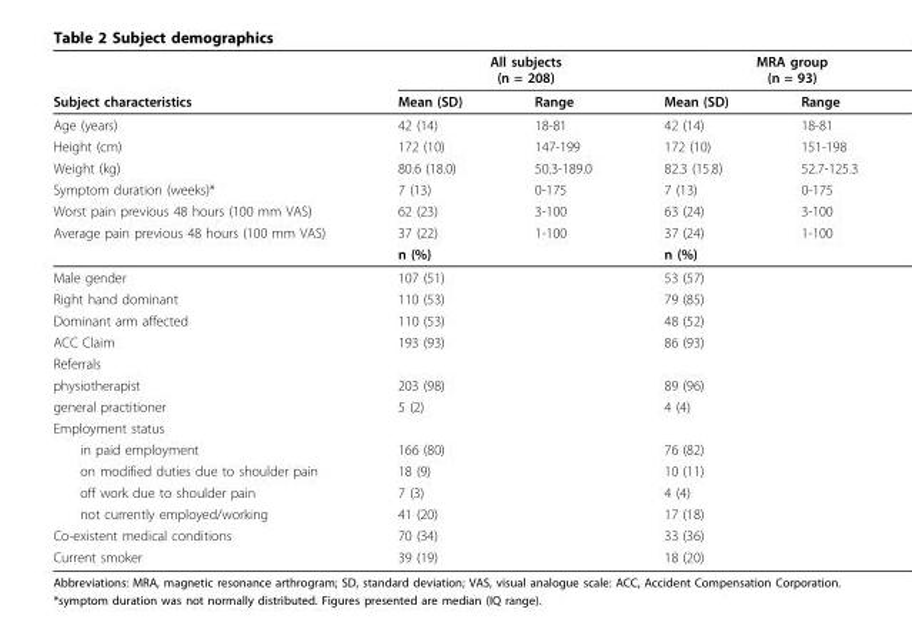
<table><thead><tr><td rowspan="2">Subject characteristics</td><td colspan="2">All subjects (n = 208)</td><td colspan="2">MRA group (n = 93)</td></tr><tr><td>Mean (SD)</td><td>Range</td><td>Mean (SD)</td><td>Range</td></tr></thead><tbody><tr><td>Age (years)</td><td>42 (14)</td><td>18-81</td><td>42 (14)</td><td>18-81</td></tr><tr><td>Height (cm)</td><td>172 (10)</td><td>147-199</td><td>172 (10)</td><td>151-198</td></tr><tr><td>Weight (kg)</td><td>80.6 (18.0)</td><td>50.3-189.0</td><td>82.3 (15.8)</td><td>52.7-125.3</td></tr><tr><td>Symptom duration (weeks)*</td><td>7 (13)</td><td>0-175</td><td>7 (13)</td><td>0-175</td></tr><tr><td>Worst pain previous 48 hours (100 mm VAS)</td><td>62 (23)</td><td>3-100</td><td>63 (24)</td><td>3-100</td></tr><tr><td rowspan="2">Average pain previous 48 hours (100 mm VAS)</td><td>37 (22)</td><td>1-100</td><td>37 (24)</td><td>1-100</td></tr><tr><td>n (%)</td><td></td><td>n (%)</td><td></td></tr><tr><td>Male gender</td><td>107 (51)</td><td></td><td>53 (57)</td><td></td></tr><tr><td>Right hand dominant</td><td>110 (53)</td><td></td><td>79 (85)</td><td></td></tr><tr><td>Dominant arm affected</td><td>110 (53)</td><td></td><td>48 (52)</td><td></td></tr><tr><td>ACC Claim</td><td>193 (93)</td><td></td><td>86 (93)</td><td></td></tr><tr><td colspan="5">Referrals</td></tr><tr><td>physiotherapist</td><td>203 (98)</td><td></td><td>89 (96)</td><td></td></tr><tr><td>general practitioner</td><td>5 (2)</td><td></td><td>4 (4)</td><td></td></tr><tr><td colspan="5">Employment status</td></tr><tr><td>in paid employment</td><td>166 (80)</td><td></td><td>76 (82)</td><td></td></tr><tr><td>on modified duties due to shoulder pain</td><td>18 (9)</td><td></td><td>10 (11)</td><td></td></tr><tr><td>off work due to shoulder pain</td><td>7 (3)</td><td></td><td>4 (4)</td><td></td></tr><tr><td>not currently employed/working</td><td>41 (20)</td><td></td><td>17 (18)</td><td></td></tr><tr><td>Co-existent medical conditions</td><td>70 (34)</td><td></td><td>33 (36)</td><td></td></tr><tr><td>Current smoker</td><td>39 (19)</td><td></td><td>18 (20)</td><td></td></tr></tbody></table>